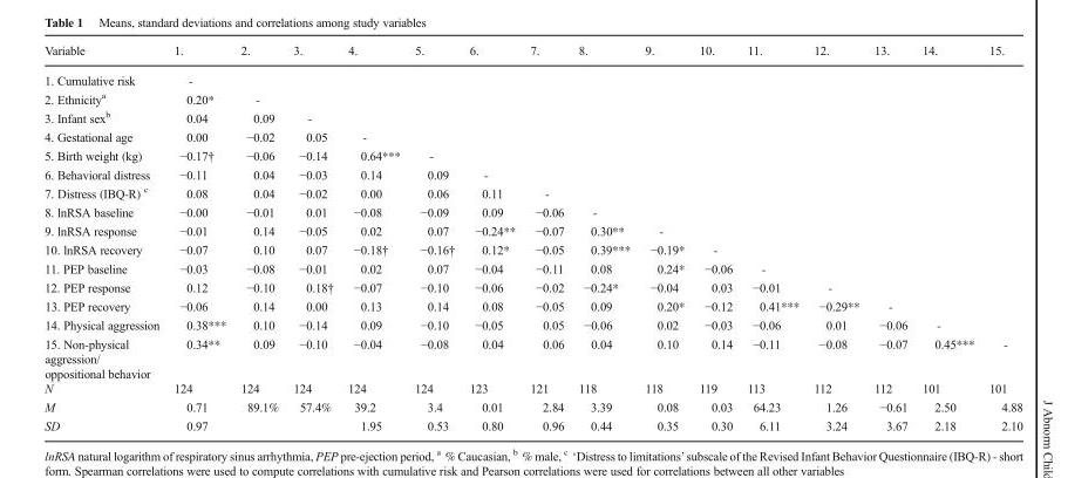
<table><thead><tr><td>Variable</td><td>1.</td><td>2.</td><td>3.</td><td>4.</td><td>5.</td><td>6.</td><td>7.</td><td>8.</td><td>9.</td><td>10.</td><td>11.</td><td>12.</td><td>13.</td><td>14.</td><td>15.</td></tr></thead><tbody><tr><td>1. Cumulative risk</td><td>-</td><td></td><td></td><td></td><td></td><td></td><td></td><td></td><td></td><td></td><td></td><td></td><td></td><td></td><td></td></tr><tr><td>2. Ethnicity<sup>a</sup></td><td>0.20*</td><td>-</td><td></td><td></td><td></td><td></td><td></td><td></td><td></td><td></td><td></td><td></td><td></td><td></td><td></td></tr><tr><td>3. Infant sex<sup>b</sup></td><td>0.04</td><td>0.09</td><td>-</td><td></td><td></td><td></td><td></td><td></td><td></td><td></td><td></td><td></td><td></td><td></td><td></td></tr><tr><td>4. Gestational age</td><td>0.00</td><td>−0.02</td><td>0.05</td><td>-</td><td></td><td></td><td></td><td></td><td></td><td></td><td></td><td></td><td></td><td></td><td></td></tr><tr><td>5. Birth weight (kg)</td><td>−0.17†</td><td>−0.06</td><td>−0.14</td><td>0.64***</td><td>-</td><td></td><td></td><td></td><td></td><td></td><td></td><td></td><td></td><td></td><td></td></tr><tr><td>6. Behavioral distress</td><td>−0.11</td><td>0.04</td><td>−0.03</td><td>0.14</td><td>0.09</td><td>-</td><td></td><td></td><td></td><td></td><td></td><td></td><td></td><td></td><td></td></tr><tr><td>7. Distress (IBQ-R) <sup>c</sup></td><td>0.08</td><td>0.04</td><td>−0.02</td><td>0.00</td><td>0.06</td><td>0.11</td><td>-</td><td></td><td></td><td></td><td></td><td></td><td></td><td></td><td></td></tr><tr><td>8. lnRSA baseline</td><td>−0.00</td><td>−0.01</td><td>0.01</td><td>−0.08</td><td>−0.09</td><td>0.09</td><td>−0.06</td><td>-</td><td></td><td></td><td></td><td></td><td></td><td></td><td></td></tr><tr><td>9. lnRSA response</td><td>−0.01</td><td>0.14</td><td>−0.05</td><td>0.02</td><td>0.07</td><td>−0.24**</td><td>−0.07</td><td>0.30**</td><td>-</td><td></td><td></td><td></td><td></td><td></td><td></td></tr><tr><td>10. lnRSA recovery</td><td>−0.07</td><td>0.10</td><td>0.07</td><td>−0.18†</td><td>−0.16†</td><td>0.12*</td><td>−0.05</td><td>0.39***</td><td>−0.19*</td><td>-</td><td></td><td></td><td></td><td></td><td></td></tr><tr><td>11. PEP baseline</td><td>−0.03</td><td>−0.08</td><td>−0.01</td><td>0.02</td><td>0.07</td><td>−0.04</td><td>−0.11</td><td>0.08</td><td>0.24*</td><td>−0.06</td><td>-</td><td></td><td></td><td></td><td></td></tr><tr><td>12. PEP response</td><td>0.12</td><td>−0.10</td><td>0.18†</td><td>−0.07</td><td>−0.10</td><td>−0.06</td><td>−0.02</td><td>−0.24*</td><td>−0.04</td><td>0.03</td><td>−0.01</td><td>-</td><td></td><td></td><td></td></tr><tr><td>13. PEP recovery</td><td>−0.06</td><td>0.14</td><td>0.00</td><td>0.13</td><td>0.14</td><td>0.08</td><td>−0.05</td><td>0.09</td><td>0.20*</td><td>−0.12</td><td>0.41***</td><td>−0.29**</td><td>-</td><td></td><td></td></tr><tr><td>14. Physical aggression</td><td>0.38***</td><td>0.10</td><td>−0.14</td><td>0.09</td><td>−0.10</td><td>−0.05</td><td>0.05</td><td>−0.06</td><td>0.02</td><td>−0.03</td><td>−0.06</td><td>0.01</td><td>−0.06</td><td>-</td><td></td></tr><tr><td>15. Non-physical aggression/ oppositional behavior</td><td>0.34**</td><td>0.09</td><td>−0.10</td><td>−0.04</td><td>−0.08</td><td>0.04</td><td>0.06</td><td>0.04</td><td>0.10</td><td>0.14</td><td>−0.11</td><td>−0.08</td><td>−0.07</td><td>0.45***</td><td>-</td></tr><tr><td>N</td><td>124</td><td>124</td><td>124</td><td>124</td><td>124</td><td>123</td><td>121</td><td>118</td><td>118</td><td>119</td><td>113</td><td>112</td><td>112</td><td>101</td><td>101</td></tr><tr><td>M</td><td>0.71</td><td>89.1%</td><td>57.4%</td><td>39.2</td><td>3.4</td><td>0.01</td><td>2.84</td><td>3.39</td><td>0.08</td><td>0.03</td><td>64.23</td><td>1.26</td><td>−0.61</td><td>2.50</td><td>4.88</td></tr><tr><td>SD</td><td>0.97</td><td></td><td></td><td>1.95</td><td>0.53</td><td>0.80</td><td>0.96</td><td>0.44</td><td>0.35</td><td>0.30</td><td>6.11</td><td>3.24</td><td>3.67</td><td>2.18</td><td>2.10</td></tr></tbody></table>